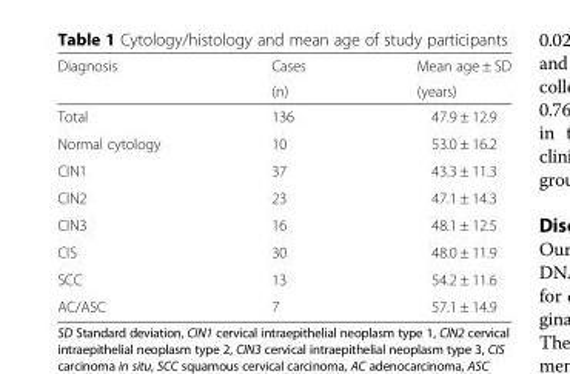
<table><thead><tr><td rowspan="2">Diagnosis</td><td rowspan="2">Cases (n)</td><td rowspan="2">Mean age ± SD (years)</td></tr><tr></tr></thead><tbody><tr><td>Total</td><td>136</td><td>47.9 ± 12.9</td></tr><tr><td>Normal cytology</td><td>10</td><td>53.0 ± 16.2</td></tr><tr><td>CIN1</td><td>37</td><td>43.3 ± 11.3</td></tr><tr><td>CIN2</td><td>23</td><td>47.1 ± 14.3</td></tr><tr><td>CIN3</td><td>16</td><td>48.1 ± 12.5</td></tr><tr><td>CIS</td><td>30</td><td>48.0 ± 11.9</td></tr><tr><td>SCC</td><td>13</td><td>54.2 ± 11.6</td></tr><tr><td>AC/ASC</td><td>7</td><td>57.1 ± 14.9</td></tr></tbody></table>